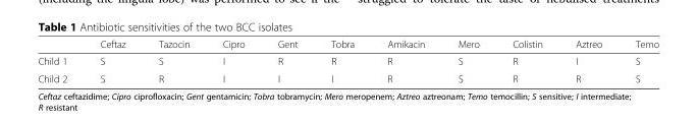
<table><thead><tr><td></td><td>Ceftaz</td><td>Tazocin</td><td>Cipro</td><td>Gent</td><td>Tobra</td><td>Amikacin</td><td>Mero</td><td>Colistin</td><td>Aztreo</td><td>Temo</td></tr></thead><tbody><tr><td>Child 1</td><td>S</td><td>S</td><td>I</td><td>R</td><td>R</td><td>R</td><td>S</td><td>R</td><td>I</td><td>S</td></tr><tr><td>Child 2</td><td>S</td><td>R</td><td>I</td><td>I</td><td>I</td><td>R</td><td>S</td><td>R</td><td>R</td><td>S</td></tr></tbody></table>